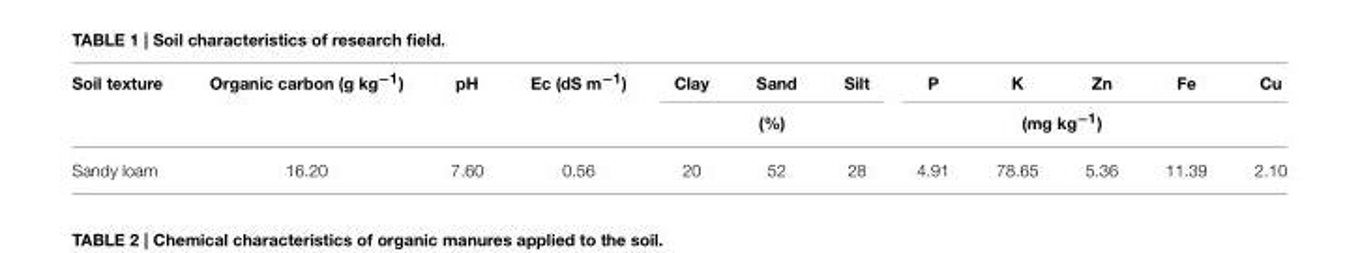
<table><thead><tr><td rowspan="2">Soil texture</td><td rowspan="2">Organic carbon (g kg<sup>−1</sup>)</td><td rowspan="2">pH</td><td rowspan="2">Ec (dS m<sup>−1</sup>)</td><td>Clay</td><td>Sand</td><td>Silt</td><td>P</td><td>K</td><td>Zn</td><td>Fe</td><td>Cu</td></tr><tr><td colspan="3">(%)</td><td colspan="5">(mg kg<sup>−1</sup>)</td></tr></thead><tbody><tr><td>Sandy loam</td><td>16.20</td><td>7.60</td><td>0.56</td><td>20</td><td>52</td><td>28</td><td>4.91</td><td>78.65</td><td>5.36</td><td>11.39</td><td>2.10</td></tr></tbody></table>